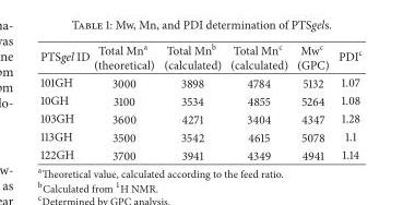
<table><thead><tr><td>PTSgel ID</td><td>Total Mn<sup>a</sup> (theoretical)</td><td>Total Mn<sup>b</sup> (calculated)</td><td>Total Mn<sup>c</sup> (calculated)</td><td>Mw<sup>c</sup> (GPC)</td><td>PDI<sup>c</sup></td></tr></thead><tbody><tr><td>101GH</td><td>3000</td><td>3898</td><td>4784</td><td>5132</td><td>1.07</td></tr><tr><td>10GH</td><td>3100</td><td>3534</td><td>4855</td><td>5264</td><td>1.08</td></tr><tr><td>103GH</td><td>3600</td><td>4271</td><td>3404</td><td>4347</td><td>1.28</td></tr><tr><td>113GH</td><td>3500</td><td>3542</td><td>4615</td><td>5078</td><td>1.1</td></tr><tr><td>122GH</td><td>3700</td><td>3941</td><td>4349</td><td>4941</td><td>1.14</td></tr></tbody></table>